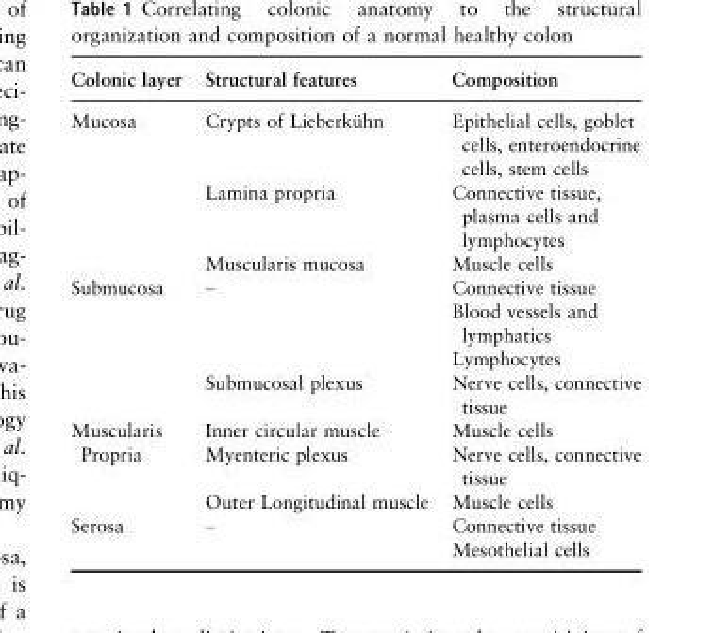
<table><thead><tr><td>Colonic layer</td><td>Structural features</td><td>Composition</td></tr></thead><tbody><tr><td rowspan="3">Mucosa</td><td>Crypts of Lieberk€uhn</td><td>Epithelial cells, goblet cells, enteroendocrine cells, stem cells</td></tr><tr><td>Lamina propria</td><td>Connective tissue, plasma cells and lymphocytes</td></tr><tr><td>Muscularis mucosa</td><td>Muscle cells</td></tr><tr><td rowspan="4">Submucosa</td><td rowspan="3">–</td><td>Connective tissue</td></tr><tr><td>Blood vessels and lymphatics</td></tr><tr><td>Lymphocytes</td></tr><tr><td>Submucosal plexus</td><td>Nerve cells, connective tissue</td></tr><tr><td rowspan="3">Muscularis Propria</td><td>Inner circular muscle</td><td>Muscle cells</td></tr><tr><td>Myenteric plexus</td><td>Nerve cells, connective tissue</td></tr><tr><td>Outer Longitudinal muscle</td><td>Muscle cells</td></tr><tr><td rowspan="2">Serosa</td><td rowspan="2">–</td><td>Connective tissue</td></tr><tr><td>Mesothelial cells</td></tr></tbody></table>